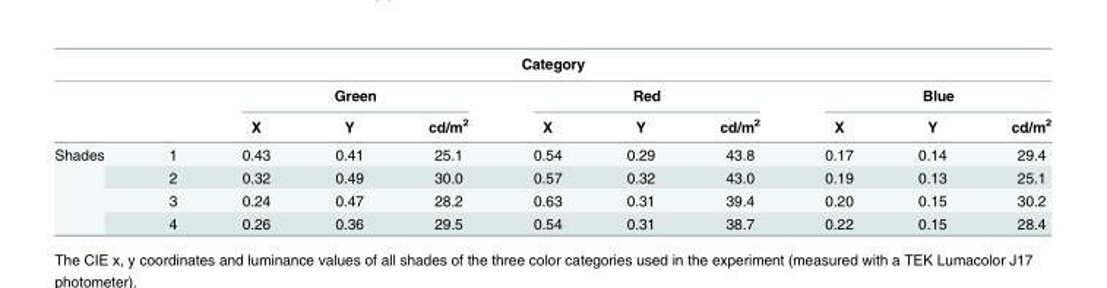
<table><thead><tr><td colspan="11">Category</td></tr><tr><td rowspan="2"></td><td rowspan="2"></td><td colspan="3">Green</td><td colspan="3">Red</td><td colspan="3">Blue</td></tr><tr><td>X</td><td>Y</td><td>cd/m<sup>2</sup></td><td>X</td><td>Y</td><td>cd/m<sup>2</sup></td><td>X</td><td>Y</td><td>cd/m<sup>2</sup></td></tr></thead><tbody><tr><td rowspan="4">Shades</td><td>1</td><td>0.43</td><td>0.41</td><td>25.1</td><td>0.54</td><td>0.29</td><td>43.8</td><td>0.17</td><td>0.14</td><td>29.4</td></tr><tr><td>2</td><td>0.32</td><td>0.49</td><td>30.0</td><td>0.57</td><td>0.32</td><td>43.0</td><td>0.19</td><td>0.13</td><td>25.1</td></tr><tr><td>3</td><td>0.24</td><td>0.47</td><td>28.2</td><td>0.63</td><td>0.31</td><td>39.4</td><td>0.20</td><td>0.15</td><td>30.2</td></tr><tr><td>4</td><td>0.26</td><td>0.36</td><td>29.5</td><td>0.54</td><td>0.31</td><td>38.7</td><td>0.22</td><td>0.15</td><td>28.4</td></tr></tbody></table>